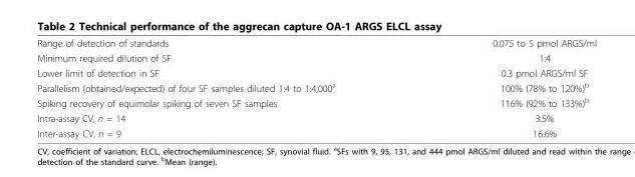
<table><tbody><tr><td>Range of detection of standards</td><td>0.075 to 5 pmol ARGS/ml</td></tr><tr><td>Minimum required dilution of SF</td><td>1:4</td></tr><tr><td>Lower limit of detection in SF</td><td>0.3 pmol ARGS/ml SF</td></tr><tr><td>Parallelism (obtained/expected) of four SF samples diluted 1:4 to 1:4,000<sup>a</sup></td><td>100% (78% to 120%)<sup>b</sup></td></tr><tr><td>Spiking recovery of equimolar spiking of seven SF samples</td><td>116% (92% to 133%)<sup>b</sup></td></tr><tr><td>Intra-assay CV, n = 14</td><td>3.5%</td></tr><tr><td>Inter-assay CV, n = 9</td><td>16.6%</td></tr></tbody></table>